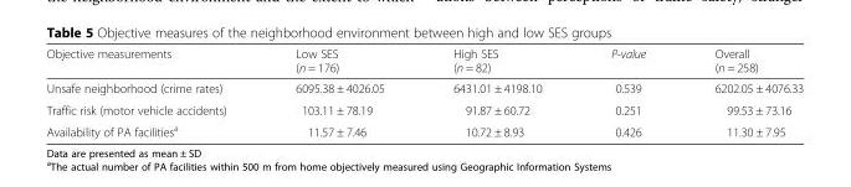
<table><thead><tr><td>Objective measurements</td><td>Low SES (n = 176)</td><td>High SES (n = 82)</td><td>P-value</td><td>Overall (n = 258)</td></tr></thead><tbody><tr><td>Unsafe neighborhood (crime rates)</td><td>6095.38 ± 4026.05</td><td>6431.01 ± 4198.10</td><td>0.539</td><td>6202.05 ± 4076.33</td></tr><tr><td>Traffic risk (motor vehicle accidents)</td><td>103.11 ± 78.19</td><td>91.87 ± 60.72</td><td>0.251</td><td>99.53 ± 73.16</td></tr><tr><td>Availability of PA facilities<sup>a</sup></td><td>11.57 ± 7.46</td><td>10.72 ± 8.93</td><td>0.426</td><td>11.30 ± 7.95</td></tr></tbody></table>